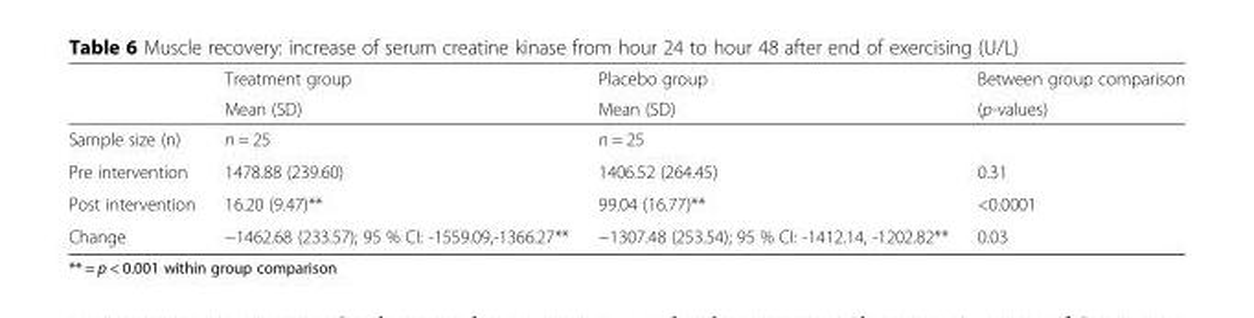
<table><thead><tr><td rowspan="2"></td><td rowspan="2">Treatment group Mean (SD)</td><td rowspan="2">Placebo group Mean (SD)</td><td rowspan="2">Between group comparison (p-values)</td></tr><tr></tr></thead><tbody><tr><td>Sample size (n)</td><td>n = 25</td><td>n = 25</td><td></td></tr><tr><td>Pre intervention</td><td>1478.88 (239.60)</td><td>1406.52 (264.45)</td><td>0.31</td></tr><tr><td>Post intervention</td><td>16.20 (9.47)**</td><td>99.04 (16.77)**</td><td>&lt;0.0001</td></tr><tr><td>Change</td><td>−1462.68 (233.57); 95 % CI: -1559.09,-1366.27**</td><td>−1307.48 (253.54); 95 % CI: -1412.14, -1202.82**</td><td>0.03</td></tr></tbody></table>